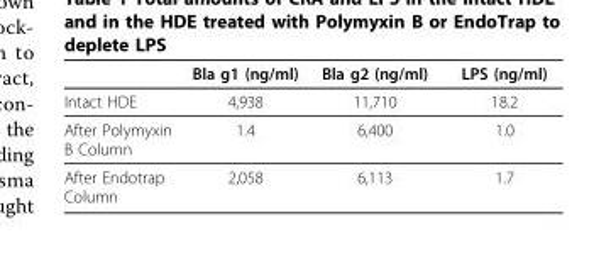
<table><thead><tr><td></td><td>Bla g1 (ng/ml)</td><td>Bla g2 (ng/ml)</td><td>LPS (ng/ml)</td></tr></thead><tbody><tr><td>Intact HDE</td><td>4,938</td><td>11,710</td><td>18.2</td></tr><tr><td>After Polymyxin B Column</td><td>1.4</td><td>6,400</td><td>1.0</td></tr><tr><td>After Endotrap Column</td><td>2,058</td><td>6,113</td><td>1.7</td></tr></tbody></table>